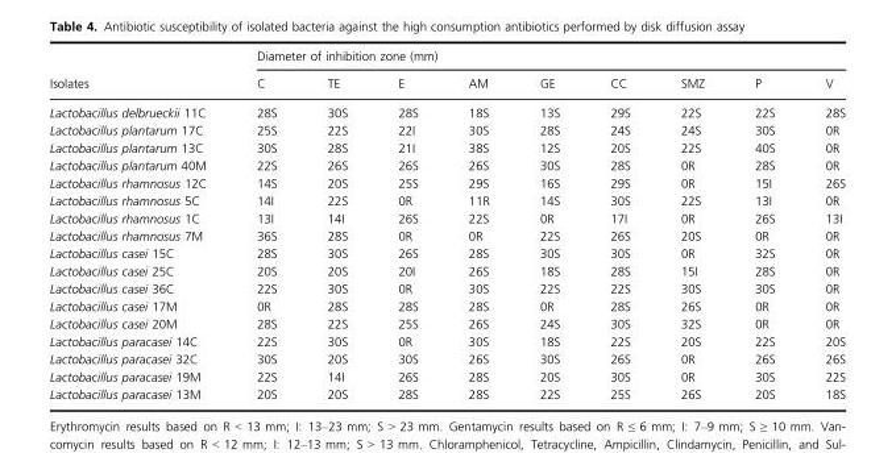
<table><thead><tr><td rowspan="2">Isolates</td><td colspan="9">Diameter of inhibition zone (mm)</td></tr><tr><td>C</td><td>TE</td><td>E</td><td>AM</td><td>GE</td><td>CC</td><td>SMZ</td><td>P</td><td>V</td></tr></thead><tbody><tr><td>Lactobacillus delbrueckii 11C</td><td>28S</td><td>30S</td><td>28S</td><td>18S</td><td>13S</td><td>29S</td><td>22S</td><td>22S</td><td>28S</td></tr><tr><td>Lactobacillus plantarum 17C</td><td>25S</td><td>22S</td><td>22I</td><td>30S</td><td>28S</td><td>24S</td><td>24S</td><td>30S</td><td>0R</td></tr><tr><td>Lactobacillus plantarum 13C</td><td>30S</td><td>28S</td><td>21I</td><td>38S</td><td>12S</td><td>20S</td><td>22S</td><td>40S</td><td>0R</td></tr><tr><td>Lactobacillus plantarum 40M</td><td>22S</td><td>26S</td><td>26S</td><td>26S</td><td>30S</td><td>28S</td><td>0R</td><td>28S</td><td>0R</td></tr><tr><td>Lactobacillus rhamnosus 12C</td><td>14S</td><td>20S</td><td>25S</td><td>29S</td><td>16S</td><td>29S</td><td>0R</td><td>15I</td><td>26S</td></tr><tr><td>Lactobacillus rhamnosus 5C</td><td>14I</td><td>22S</td><td>0R</td><td>11R</td><td>14S</td><td>30S</td><td>22S</td><td>13I</td><td>0R</td></tr><tr><td>Lactobacillus rhamnosus 1C</td><td>13I</td><td>14I</td><td>26S</td><td>22S</td><td>0R</td><td>17I</td><td>0R</td><td>26S</td><td>13I</td></tr><tr><td>Lactobacillus rhamnosus 7M</td><td>36S</td><td>28S</td><td>0R</td><td>0R</td><td>22S</td><td>26S</td><td>20S</td><td>0R</td><td>0R</td></tr><tr><td>Lactobacillus casei 15C</td><td>28S</td><td>30S</td><td>26S</td><td>28S</td><td>30S</td><td>30S</td><td>0R</td><td>32S</td><td>0R</td></tr><tr><td>Lactobacillus casei 25C</td><td>20S</td><td>20S</td><td>20I</td><td>26S</td><td>18S</td><td>28S</td><td>15I</td><td>28S</td><td>0R</td></tr><tr><td>Lactobacillus casei 36C</td><td>22S</td><td>30S</td><td>0R</td><td>30S</td><td>22S</td><td>22S</td><td>30S</td><td>30S</td><td>0R</td></tr><tr><td>Lactobacillus casei 17M</td><td>0R</td><td>28S</td><td>28S</td><td>28S</td><td>0R</td><td>28S</td><td>26S</td><td>0R</td><td>0R</td></tr><tr><td>Lactobacillus casei 20M</td><td>28S</td><td>22S</td><td>25S</td><td>26S</td><td>24S</td><td>30S</td><td>32S</td><td>0R</td><td>0R</td></tr><tr><td>Lactobacillus paracasei 14C</td><td>22S</td><td>30S</td><td>0R</td><td>30S</td><td>18S</td><td>22S</td><td>20S</td><td>22S</td><td>20S</td></tr><tr><td>Lactobacillus paracasei 32C</td><td>30S</td><td>20S</td><td>30S</td><td>26S</td><td>30S</td><td>26S</td><td>0R</td><td>26S</td><td>26S</td></tr><tr><td>Lactobacillus paracasei 19M</td><td>22S</td><td>14I</td><td>26S</td><td>28S</td><td>20S</td><td>30S</td><td>0R</td><td>30S</td><td>22S</td></tr><tr><td>Lactobacillus paracasei 13M</td><td>20S</td><td>20S</td><td>28S</td><td>28S</td><td>22S</td><td>25S</td><td>26S</td><td>20S</td><td>18S</td></tr></tbody></table>